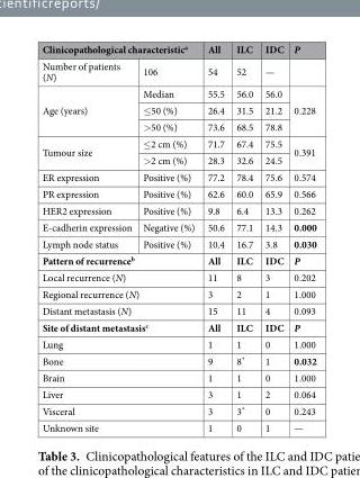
<table><thead><tr><td colspan="2">Clinicopathological characteristic<sup>a</sup></td><td rowspan="2">All 54</td><td rowspan="2">ILC 52</td><td rowspan="2">IDC —</td><td rowspan="2">P</td></tr><tr><td>Number of patients (N)</td><td>106</td></tr></thead><tbody><tr><td rowspan="3">Age (years)</td><td>Median</td><td>55.5</td><td>56.0</td><td>56.0</td><td rowspan="3">0.228</td></tr><tr><td>≤50 (%)</td><td>26.4</td><td>31.5</td><td>21.2</td></tr><tr><td>&gt;50 (%)</td><td>73.6</td><td>68.5</td><td>78.8</td></tr><tr><td rowspan="2">Tumour size</td><td>≤2 cm (%)</td><td>71.7</td><td>67.4</td><td>75.5</td><td rowspan="2">0.391</td></tr><tr><td>&gt;2 cm (%)</td><td>28.3</td><td>32.6</td><td>24.5</td></tr><tr><td>ER expression</td><td>Positive (%)</td><td>77.2</td><td>78.4</td><td>75.6</td><td>0.574</td></tr><tr><td>PR expression</td><td>Positive (%)</td><td>62.6</td><td>60.0</td><td>65.9</td><td>0.566</td></tr><tr><td>HER2 expression</td><td>Positive (%)</td><td>9.8</td><td>6.4</td><td>13.3</td><td>0.262</td></tr><tr><td>E-cadherin expression</td><td>Negative (%)</td><td>50.6</td><td>77.1</td><td>14.3</td><td>0.000</td></tr><tr><td>Lymph node status</td><td>Positive (%)</td><td>10.4</td><td>16.7</td><td>3.8</td><td>0.030</td></tr><tr><td colspan="2">Pattern of recurrence<sup>b</sup></td><td>All</td><td>ILC</td><td>IDC</td><td>P</td></tr><tr><td colspan="2">Local recurrence (N)</td><td>11</td><td>8</td><td>3</td><td>0.202</td></tr><tr><td colspan="2">Regional recurrence (N)</td><td>3</td><td>2</td><td>1</td><td>1.000</td></tr><tr><td colspan="2">Distant metastasis (N)</td><td>15</td><td>11</td><td>4</td><td>0.093</td></tr><tr><td colspan="2">Site of distant metastasis<sup>c</sup></td><td>All</td><td>ILC</td><td>IDC</td><td>P</td></tr><tr><td colspan="2">Lung</td><td>1</td><td>1</td><td>0</td><td>1.000</td></tr><tr><td colspan="2">Bone</td><td>9</td><td>8*</td><td>1</td><td>0.032</td></tr><tr><td colspan="2">Brain</td><td>1</td><td>1</td><td>0</td><td>1.000</td></tr><tr><td colspan="2">Liver</td><td>3</td><td>1</td><td>2</td><td>0.064</td></tr><tr><td colspan="2">Visceral</td><td>3</td><td>3*</td><td>0</td><td>0.243</td></tr><tr><td colspan="2">Unknown site</td><td>1</td><td>0</td><td>1</td><td>—</td></tr></tbody></table>